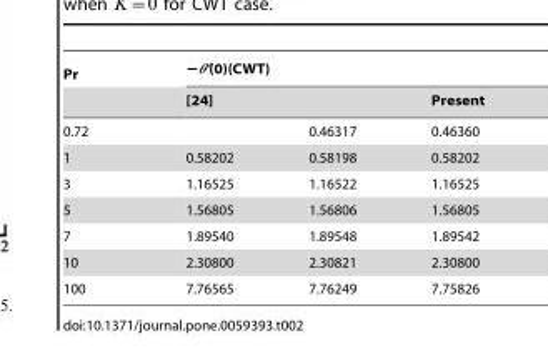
<table><thead><tr><td rowspan="3">Pr 0.72</td><td colspan="3">−θ’(0)(CWT)</td></tr><tr><td colspan="2">[24]</td><td rowspan="2">Present 0.46360</td></tr><tr><td></td><td>0.46317</td></tr></thead><tbody><tr><td>1</td><td>0.58202</td><td>0.58198</td><td>0.58202</td></tr><tr><td>3</td><td>1.16525</td><td>1.16522</td><td>1.16525</td></tr><tr><td>5</td><td>1.56805</td><td>1.56806</td><td>1.56805</td></tr><tr><td>7</td><td>1.89540</td><td>1.89548</td><td>1.89542</td></tr><tr><td>10</td><td>2.30800</td><td>2.30821</td><td>2.30800</td></tr><tr><td>100</td><td>7.76565</td><td>7.76249</td><td>7.75826</td></tr></tbody></table>